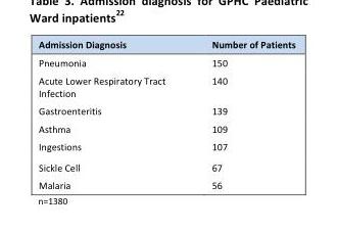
<table><thead><tr><td>Admission Diagnosis</td><td>Number of Patients</td></tr></thead><tbody><tr><td>Pneumonia</td><td>150</td></tr><tr><td>Acute Lower Respiratory Tract Infection</td><td>140</td></tr><tr><td>Gastroenteritis</td><td>139</td></tr><tr><td>Asthma</td><td>109</td></tr><tr><td>Ingestions</td><td>107</td></tr><tr><td>Sickle Cell</td><td>67</td></tr><tr><td>Malaria</td><td>56</td></tr></tbody></table>